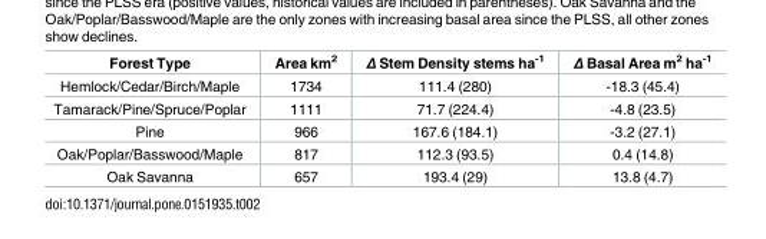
<table><thead><tr><td>Forest Type</td><td>Area km<sup>2</sup></td><td>Δ Stem Density stems ha<sup>-1</sup></td><td>Δ Basal Area m<sup>2</sup> ha<sup>-1</sup></td></tr></thead><tbody><tr><td>Hemlock/Cedar/Birch/Maple</td><td>1734</td><td>111.4 (280)</td><td>-18.3 (45.4)</td></tr><tr><td>Tamarack/Pine/Spruce/Poplar</td><td>1111</td><td>71.7 (224.4)</td><td>-4.8 (23.5)</td></tr><tr><td>Pine</td><td>966</td><td>167.6 (184.1)</td><td>-3.2 (27.1)</td></tr><tr><td>Oak/Poplar/Basswood/Maple</td><td>817</td><td>112.3 (93.5)</td><td>0.4 (14.8)</td></tr><tr><td>Oak Savanna</td><td>657</td><td>193.4 (29)</td><td>13.8 (4.7)</td></tr></tbody></table>